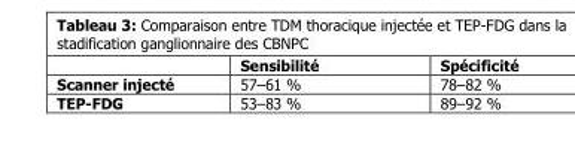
<table><thead><tr><td></td><td>Sensibilité</td><td>Spécificité</td></tr></thead><tbody><tr><td>Scanner injecté</td><td>57–61 %</td><td>78–82 %</td></tr><tr><td>TEP-FDG</td><td>53–83 %</td><td>89–92 %</td></tr></tbody></table>